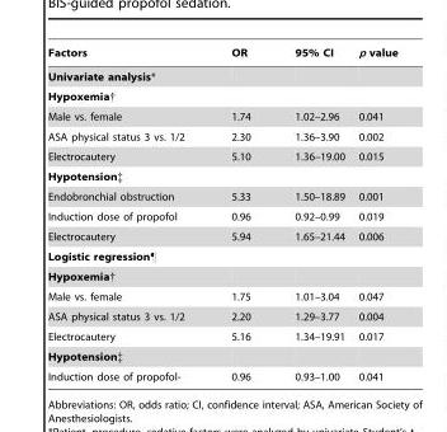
<table><thead><tr><td>Factors</td><td>OR</td><td>95% CI</td><td>p value</td></tr></thead><tbody><tr><td colspan="4">Univariate analysis*</td></tr><tr><td colspan="4">Hypoxemia†</td></tr><tr><td>Male vs. female</td><td>1.74</td><td>1.02–2.96</td><td>0.041</td></tr><tr><td>ASA physical status 3 vs. 1/2</td><td>2.30</td><td>1.36–3.90</td><td>0.002</td></tr><tr><td>Electrocautery</td><td>5.10</td><td>1.36–19.00</td><td>0.015</td></tr><tr><td colspan="4">Hypotension‡</td></tr><tr><td>Endobronchial obstruction</td><td>5.33</td><td>1.50–18.89</td><td>0.001</td></tr><tr><td>Induction dose of propofol</td><td>0.96</td><td>0.92–0.99</td><td>0.019</td></tr><tr><td>Electrocautery</td><td>5.94</td><td>1.65–21.44</td><td>0.006</td></tr><tr><td colspan="4">Logistic regression¶</td></tr><tr><td colspan="4">Hypoxemia†</td></tr><tr><td>Male vs. female</td><td>1.75</td><td>1.01–3.04</td><td>0.047</td></tr><tr><td>ASA physical status 3 vs. 1/2</td><td>2.20</td><td>1.29–3.77</td><td>0.004</td></tr><tr><td>Electrocautery</td><td>5.16</td><td>1.34–19.91</td><td>0.017</td></tr><tr><td colspan="4">Hypotension‡</td></tr><tr><td>Induction dose of propofol-</td><td>0.96</td><td>0.93–1.00</td><td>0.041</td></tr></tbody></table>